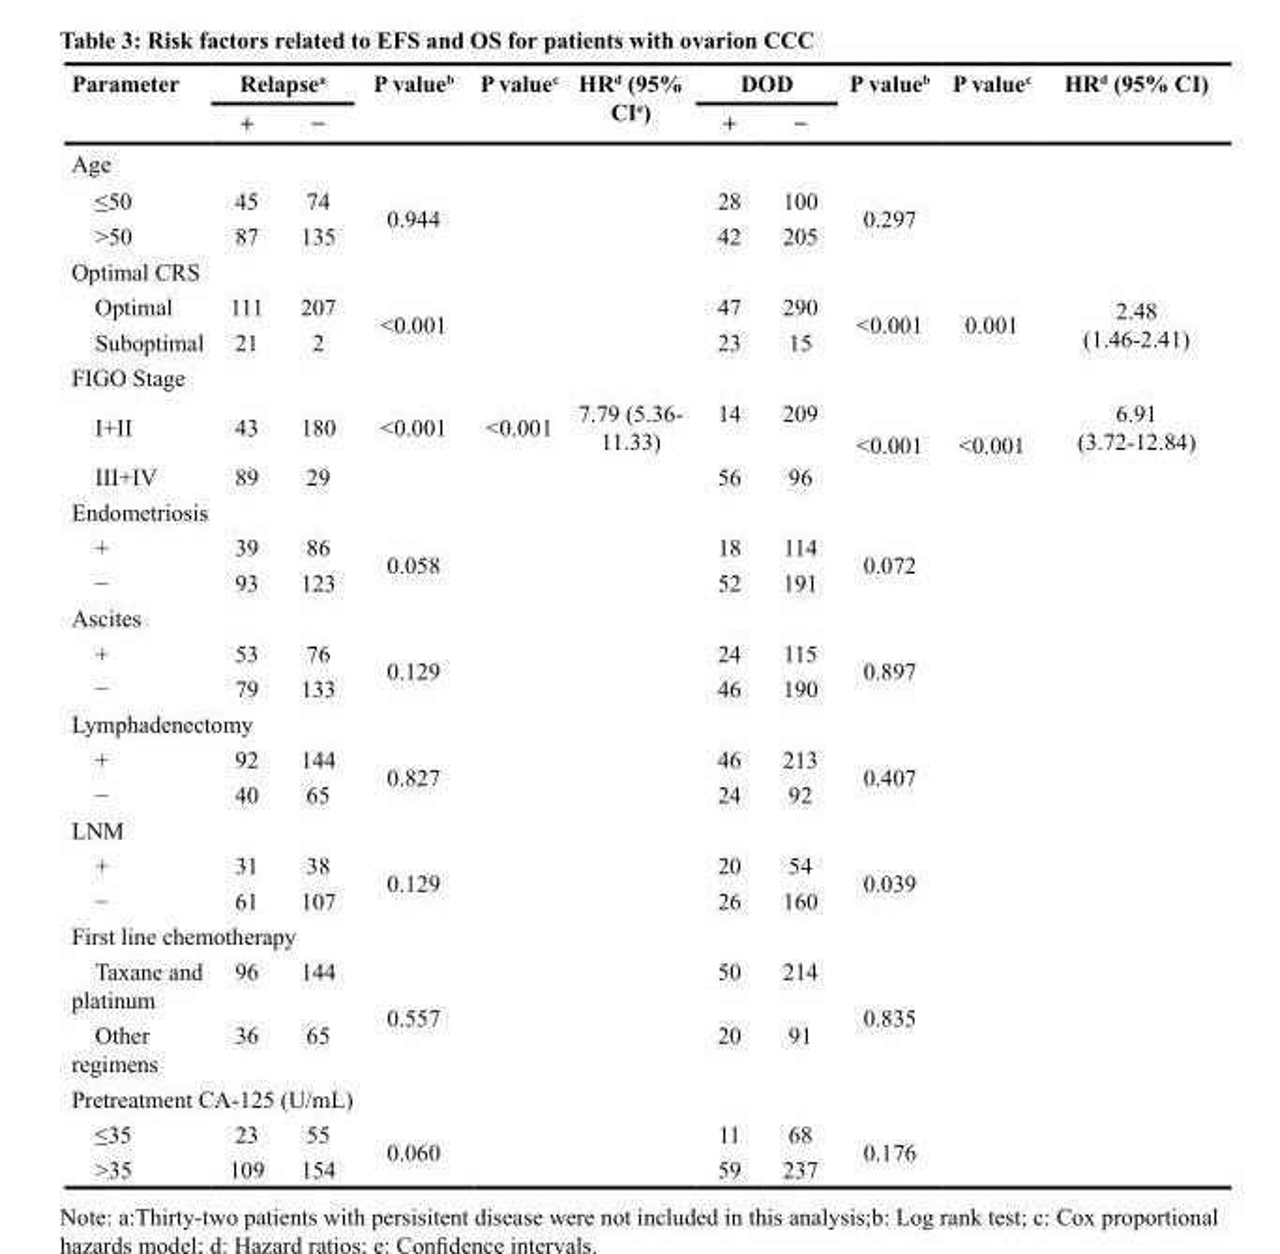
<table><thead><tr><td rowspan="2">Parameter</td><td colspan="2">Relapse<sup>a</sup></td><td rowspan="2">P value<sup>b</sup></td><td rowspan="2">P value<sup>c</sup></td><td rowspan="2">HR<sup>d</sup> (95% CI<sup>e</sup>)</td><td colspan="2">DOD</td><td rowspan="2">P value<sup>b</sup></td><td rowspan="2">P value<sup>c</sup></td><td rowspan="2">HR<sup>d</sup> (95% CI)</td></tr><tr><td>+</td><td>−</td><td>+</td><td>−</td></tr></thead><tbody><tr><td colspan="11">Age</td></tr><tr><td>≤50</td><td>45</td><td>74</td><td rowspan="2">0.944</td><td></td><td></td><td>28</td><td>100</td><td rowspan="2">0.297</td><td></td><td></td></tr><tr><td>&gt;50</td><td>87</td><td>135</td><td></td><td></td><td>42</td><td>205</td><td></td><td></td></tr><tr><td colspan="11">Optimal CRS</td></tr><tr><td>Optimal</td><td>111</td><td>207</td><td rowspan="2">&lt;0.001</td><td></td><td></td><td>47</td><td>290</td><td rowspan="2">&lt;0.001</td><td rowspan="2">0.001</td><td rowspan="2">2.48 (1.46-2.41)</td></tr><tr><td>Suboptimal</td><td>21</td><td>2</td><td></td><td></td><td>23</td><td>15</td></tr><tr><td colspan="11">FIGO Stage</td></tr><tr><td>I+II</td><td>43</td><td>180</td><td rowspan="2">&lt;0.001</td><td rowspan="2">&lt;0.001</td><td rowspan="2">7.79 (5.36- 11.33)</td><td>14</td><td>209</td><td rowspan="2">&lt;0.001</td><td rowspan="2">&lt;0.001</td><td rowspan="2">6.91 (3.72-12.84)</td></tr><tr><td>III+IV</td><td>89</td><td>29</td><td>56</td><td>96</td></tr><tr><td colspan="11">Endometriosis</td></tr><tr><td>+</td><td>39</td><td>86</td><td rowspan="2">0.058</td><td></td><td></td><td>18</td><td>114</td><td rowspan="2">0.072</td><td></td><td></td></tr><tr><td>−</td><td>93</td><td>123</td><td></td><td></td><td>52</td><td>191</td><td></td><td></td></tr><tr><td colspan="11">Ascites</td></tr><tr><td>+</td><td>53</td><td>76</td><td rowspan="2">0.129</td><td></td><td></td><td>24</td><td>115</td><td rowspan="2">0.897</td><td></td><td></td></tr><tr><td>−</td><td>79</td><td>133</td><td></td><td></td><td>46</td><td>190</td><td></td><td></td></tr><tr><td colspan="11">Lymphadenectomy</td></tr><tr><td>+</td><td>92</td><td>144</td><td rowspan="2">0.827</td><td></td><td></td><td>46</td><td>213</td><td rowspan="2">0.407</td><td></td><td></td></tr><tr><td>−</td><td>40</td><td>65</td><td></td><td></td><td>24</td><td>92</td><td></td><td></td></tr><tr><td colspan="11">LNM</td></tr><tr><td>+</td><td>31</td><td>38</td><td rowspan="2">0.129</td><td></td><td></td><td>20</td><td>54</td><td rowspan="2">0.039</td><td></td><td></td></tr><tr><td>−</td><td>61</td><td>107</td><td></td><td></td><td>26</td><td>160</td><td></td><td></td></tr><tr><td colspan="11">First line chemotherapy</td></tr><tr><td>Taxane and platinum</td><td>96</td><td>144</td><td rowspan="2">0.557</td><td></td><td></td><td>50</td><td>214</td><td rowspan="2">0.835</td><td></td><td></td></tr><tr><td>Other regimens</td><td>36</td><td>65</td><td></td><td></td><td>20</td><td>91</td><td></td><td></td></tr><tr><td colspan="11">Pretreatment CA-125 (U/mL)</td></tr><tr><td>≤35</td><td>23</td><td>55</td><td rowspan="2">0.060</td><td></td><td></td><td>11</td><td>68</td><td rowspan="2">0.176</td><td></td><td></td></tr><tr><td>&gt;35</td><td>109</td><td>154</td><td></td><td></td><td>59</td><td>237</td><td></td><td></td></tr></tbody></table>